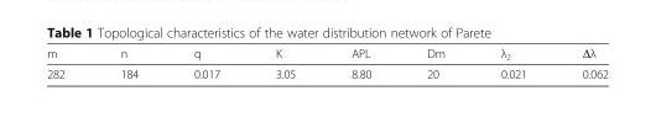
<table><thead><tr><td>m</td><td>n</td><td>q</td><td>K</td><td>APL</td><td>Dm</td><td>λ<sub>2</sub></td><td>Δλ</td></tr></thead><tbody><tr><td>282</td><td>184</td><td>0.017</td><td>3.05</td><td>8.80</td><td>20</td><td>0.021</td><td>0.062</td></tr></tbody></table>